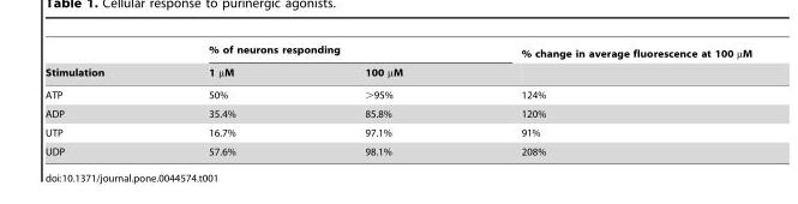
<table><thead><tr><td rowspan="2">Stimulation</td><td colspan="2">% of neurons responding</td><td rowspan="2">% change in average fluorescence at 100 µM</td></tr><tr><td>1 µM</td><td>100 µM</td></tr></thead><tbody><tr><td>ATP</td><td>50%</td><td>&gt;95%</td><td>124%</td></tr><tr><td>ADP</td><td>35.4%</td><td>85.8%</td><td>120%</td></tr><tr><td>UTP</td><td>16.7%</td><td>97.1%</td><td>91%</td></tr><tr><td>UDP</td><td>57.6%</td><td>98.1%</td><td>208%</td></tr></tbody></table>